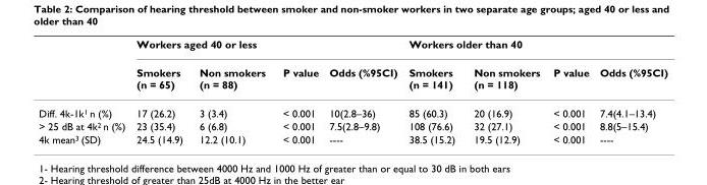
<table><thead><tr><td rowspan="2"></td><td colspan="4">Workers aged 40 or less</td><td colspan="4">Workers older than 40</td></tr><tr><td>Smokers (n = 65)</td><td>Non smokers (n = 88)</td><td>P value</td><td>Odds (%95CI)</td><td>Smokers (n = 141)</td><td>Non smokers (n = 118)</td><td>P value</td><td>Odds (%95CI)</td></tr></thead><tbody><tr><td>Diff. 4k-1k<sup>1</sup> n (%)</td><td>17 (26.2)</td><td>3 (3.4)</td><td>&lt; 0.001</td><td>10(2.8–36)</td><td>85 (60.3)</td><td>20 (16.9)</td><td>&lt; 0.001</td><td>7.4(4.1–13.4)</td></tr><tr><td>&gt; 25 dB at 4k<sup>2</sup> n (%)</td><td>23 (35.4)</td><td>6 (6.8)</td><td>&lt; 0.001</td><td>7.5(2.8–9.8)</td><td>108 (76.6)</td><td>32 (27.1)</td><td>&lt; 0.001</td><td>8.8(5–15.4)</td></tr><tr><td>4k mean<sup>3</sup> (SD)</td><td>24.5 (14.9)</td><td>12.2 (10.1)</td><td>&lt; 0.001</td><td>----</td><td>38.5 (15.2)</td><td>19.5 (12.9)</td><td>&lt; 0.001</td><td>----</td></tr></tbody></table>